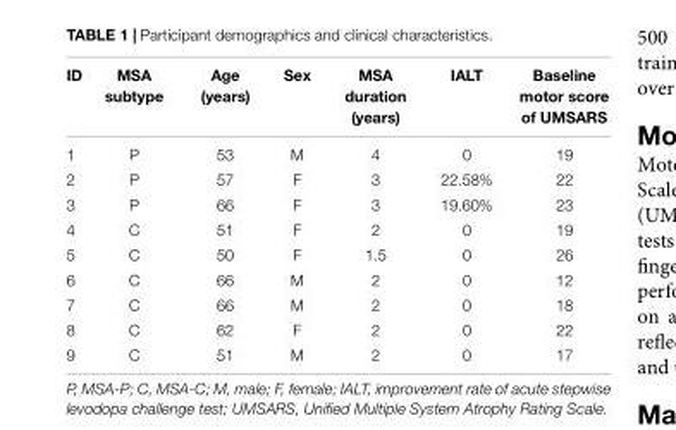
<table><thead><tr><td>ID</td><td>MSA subtype</td><td>Age (years)</td><td>Sex</td><td>MSA duration (years)</td><td>IALT</td><td>Baseline motor score of UMSARS</td></tr></thead><tbody><tr><td>1</td><td>P</td><td>53</td><td>M</td><td>4</td><td>0</td><td>19</td></tr><tr><td>2</td><td>P</td><td>57</td><td>F</td><td>3</td><td>22.58%</td><td>22</td></tr><tr><td>3</td><td>P</td><td>66</td><td>F</td><td>3</td><td>19.60%</td><td>23</td></tr><tr><td>4</td><td>C</td><td>51</td><td>F</td><td>2</td><td>0</td><td>19</td></tr><tr><td>5</td><td>C</td><td>50</td><td>F</td><td>1.5</td><td>0</td><td>26</td></tr><tr><td>6</td><td>C</td><td>66</td><td>M</td><td>2</td><td>0</td><td>12</td></tr><tr><td>7</td><td>C</td><td>66</td><td>M</td><td>2</td><td>0</td><td>18</td></tr><tr><td>8</td><td>C</td><td>62</td><td>F</td><td>2</td><td>0</td><td>22</td></tr><tr><td>9</td><td>C</td><td>51</td><td>M</td><td>2</td><td>0</td><td>17</td></tr></tbody></table>